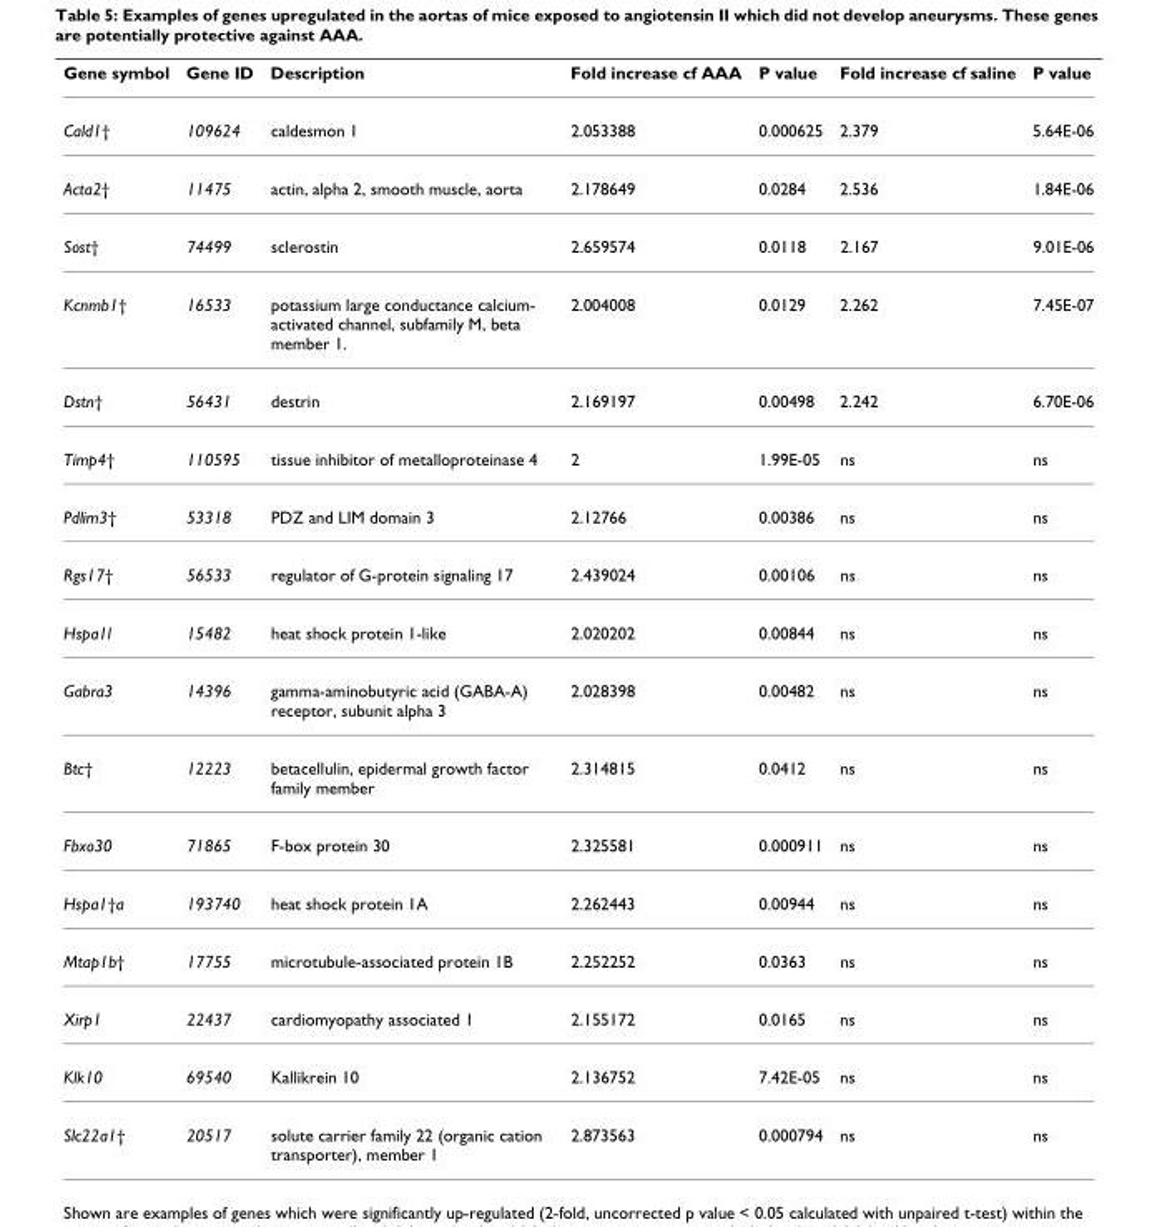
<table><thead><tr><td>Gene symbol</td><td>Gene ID</td><td>Description</td><td>Fold increase cf AAA</td><td>P value</td><td>Fold increase cf saline</td><td>P value</td></tr></thead><tbody><tr><td>Cald1†</td><td>109624</td><td>caldesmon 1</td><td>2.053388</td><td>0.000625</td><td>2.379</td><td>5.64E-06</td></tr><tr><td>Acta2†</td><td>11475</td><td>actin, alpha 2, smooth muscle, aorta</td><td>2.178649</td><td>0.0284</td><td>2.536</td><td>1.84E-06</td></tr><tr><td>Sost†</td><td>74499</td><td>sclerostin</td><td>2.659574</td><td>0.0118</td><td>2.167</td><td>9.01E-06</td></tr><tr><td>Kcnmb1†</td><td>16533</td><td>potassium large conductance calcium- activated channel, subfamily M, beta member 1.</td><td>2.004008</td><td>0.0129</td><td>2.262</td><td>7.45E-07</td></tr><tr><td>Dstn†</td><td>56431</td><td>destrin</td><td>2.169197</td><td>0.00498</td><td>2.242</td><td>6.70E-06</td></tr><tr><td>Timp4†</td><td>110595</td><td>tissue inhibitor of metalloproteinase 4</td><td>2</td><td>1.99E-05</td><td>ns</td><td>ns</td></tr><tr><td>Pdlim3†</td><td>53318</td><td>PDZ and LIM domain 3</td><td>2.12766</td><td>0.00386</td><td>ns</td><td>ns</td></tr><tr><td>Rgs17†</td><td>56533</td><td>regulator of G-protein signaling 17</td><td>2.439024</td><td>0.00106</td><td>ns</td><td>ns</td></tr><tr><td>Hspa1l</td><td>15482</td><td>heat shock protein 1-like</td><td>2.020202</td><td>0.00844</td><td>ns</td><td>ns</td></tr><tr><td>Gabra3</td><td>14396</td><td>gamma-aminobutyric acid (GABA-A) receptor, subunit alpha 3</td><td>2.028398</td><td>0.00482</td><td>ns</td><td>ns</td></tr><tr><td>Btc†</td><td>12223</td><td>betacellulin, epidermal growth factor family member</td><td>2.314815</td><td>0.0412</td><td>ns</td><td>ns</td></tr><tr><td>Fbxo30</td><td>71865</td><td>F-box protein 30</td><td>2.325581</td><td>0.000911</td><td>ns</td><td>ns</td></tr><tr><td>Hspa1†a</td><td>193740</td><td>heat shock protein 1A</td><td>2.262443</td><td>0.00944</td><td>ns</td><td>ns</td></tr><tr><td>Mtap1b†</td><td>17755</td><td>microtubule-associated protein 1B</td><td>2.252252</td><td>0.0363</td><td>ns</td><td>ns</td></tr><tr><td>Xirp1</td><td>22437</td><td>cardiomyopathy associated 1</td><td>2.155172</td><td>0.0165</td><td>ns</td><td>ns</td></tr><tr><td>Klk10</td><td>69540</td><td>Kallikrein 10</td><td>2.136752</td><td>7.42E-05</td><td>ns</td><td>ns</td></tr><tr><td>Slc22a1†</td><td>20517</td><td>solute carrier family 22 (organic cation transporter), member 1</td><td>2.873563</td><td>0.000794</td><td>ns</td><td>ns</td></tr></tbody></table>